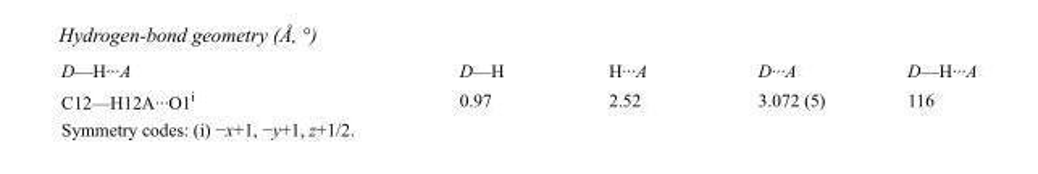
<table><tbody><tr><td>D—H···A</td><td>D—H</td><td>H···A</td><td>D···A</td><td>D—H···A</td></tr><tr><td>C12—H12A···O1<sup>i</sup></td><td>0.97</td><td>2.52</td><td>3.072 (5)</td><td>116</td></tr></tbody></table>